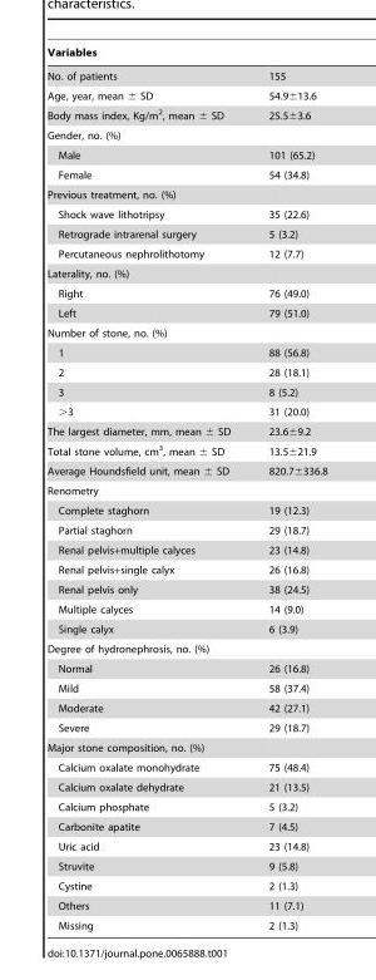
<table><thead><tr><td>Variables</td><td></td></tr></thead><tbody><tr><td>No. of patients</td><td>155</td></tr><tr><td>Age, year, mean ± SD</td><td>54.9±13.6</td></tr><tr><td>Body mass index, Kg/m<sup>2</sup>, mean ± SD</td><td>25.5±3.6</td></tr><tr><td colspan="2">Gender, no. (%)</td></tr><tr><td>Male</td><td>101 (65.2)</td></tr><tr><td>Female</td><td>54 (34.8)</td></tr><tr><td colspan="2">Previous treatment, no. (%)</td></tr><tr><td>Shock wave lithotripsy</td><td>35 (22.6)</td></tr><tr><td>Retrograde intrarenal surgery</td><td>5 (3.2)</td></tr><tr><td>Percutaneous nephrolithotomy</td><td>12 (7.7)</td></tr><tr><td colspan="2">Laterality, no. (%)</td></tr><tr><td>Right</td><td>76 (49.0)</td></tr><tr><td>Left</td><td>79 (51.0)</td></tr><tr><td colspan="2">Number of stone, no. (%)</td></tr><tr><td>1</td><td>88 (56.8)</td></tr><tr><td>2</td><td>28 (18.1)</td></tr><tr><td>3</td><td>8 (5.2)</td></tr><tr><td>&gt;3</td><td>31 (20.0)</td></tr><tr><td>The largest diameter, mm, mean ± SD</td><td>23.6±9.2</td></tr><tr><td>Total stone volume, cm<sup>3</sup>, mean ± SD</td><td>13.5±21.9</td></tr><tr><td>Average Houndsfield unit, mean ± SD</td><td>820.7±336.8</td></tr><tr><td colspan="2">Renometry</td></tr><tr><td>Complete staghorn</td><td>19 (12.3)</td></tr><tr><td>Partial staghorn</td><td>29 (18.7)</td></tr><tr><td>Renal pelvis+multiple calyces</td><td>23 (14.8)</td></tr><tr><td>Renal pelvis+single calyx</td><td>26 (16.8)</td></tr><tr><td>Renal pelvis only</td><td>38 (24.5)</td></tr><tr><td>Multiple calyces</td><td>14 (9.0)</td></tr><tr><td>Single calyx</td><td>6 (3.9)</td></tr><tr><td colspan="2">Degree of hydronephrosis, no. (%)</td></tr><tr><td>Normal</td><td>26 (16.8)</td></tr><tr><td>Mild</td><td>58 (37.4)</td></tr><tr><td>Moderate</td><td>42 (27.1)</td></tr><tr><td>Severe</td><td>29 (18.7)</td></tr><tr><td colspan="2">Major stone composition, no. (%)</td></tr><tr><td>Calcium oxalate monohydrate</td><td>75 (48.4)</td></tr><tr><td>Calcium oxalate dehydrate</td><td>21 (13.5)</td></tr><tr><td>Calcium phosphate</td><td>5 (3.2)</td></tr><tr><td>Carbonite apatite</td><td>7 (4.5)</td></tr><tr><td>Uric acid</td><td>23 (14.8)</td></tr><tr><td>Struvite</td><td>9 (5.8)</td></tr><tr><td>Cystine</td><td>2 (1.3)</td></tr><tr><td>Others</td><td>11 (7.1)</td></tr><tr><td>Missing</td><td>2 (1.3)</td></tr></tbody></table>